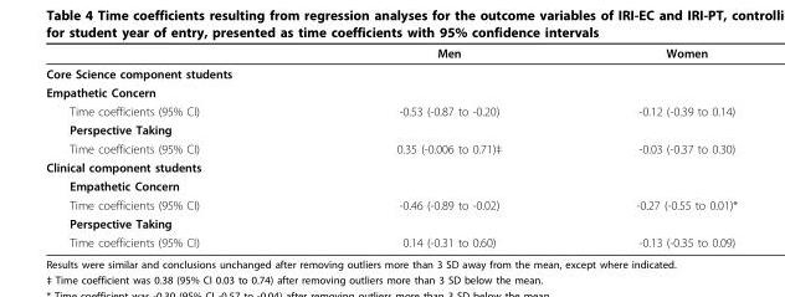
<table><thead><tr><td></td><td>Men</td><td>Women</td></tr></thead><tbody><tr><td colspan="3">Core Science component students</td></tr><tr><td colspan="3">Empathetic Concern</td></tr><tr><td>Time coefficients (95% CI)</td><td>-0.53 (-0.87 to -0.20)</td><td>-0.12 (-0.39 to 0.14)</td></tr><tr><td colspan="3">Perspective Taking</td></tr><tr><td>Time coefficients (95% CI)</td><td>0.35 (-0.006 to 0.71)‡</td><td>-0.03 (-0.37 to 0.30)</td></tr><tr><td colspan="3">Clinical component students</td></tr><tr><td colspan="3">Empathetic Concern</td></tr><tr><td>Time coefficients (95% CI)</td><td>-0.46 (-0.89 to -0.02)</td><td>-0.27 (-0.55 to 0.01)*</td></tr><tr><td colspan="3">Perspective Taking</td></tr><tr><td>Time coefficients (95% CI)</td><td>0.14 (-0.31 to 0.60)</td><td>-0.13 (-0.35 to 0.09)</td></tr></tbody></table>